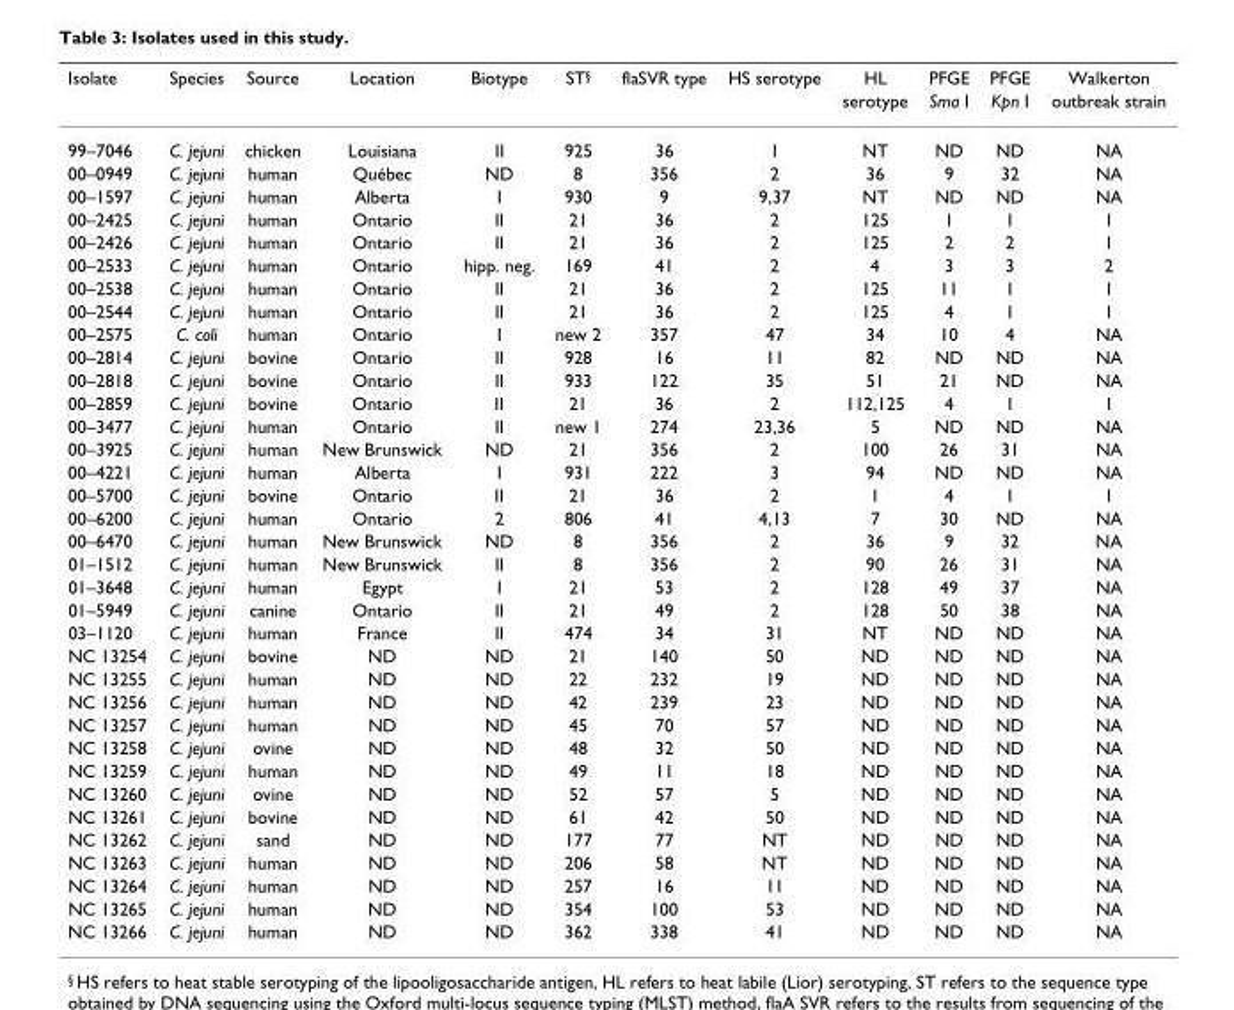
<table><thead><tr><td rowspan="2">Isolate</td><td rowspan="2">Species</td><td rowspan="2">Source</td><td rowspan="2">Location</td><td rowspan="2">Biotype</td><td rowspan="2">ST<sup>§</sup></td><td rowspan="2">flaSVR type</td><td rowspan="2">HS serotype</td><td rowspan="2">HL serotype</td><td rowspan="2">PFGE Sma I</td><td rowspan="2">PFGE Kpn I</td><td rowspan="2">Walkerton outbreak strain</td></tr><tr></tr></thead><tbody><tr><td>99–7046</td><td>C. jejuni</td><td>chicken</td><td>Louisiana</td><td>II</td><td>925</td><td>36</td><td>1</td><td>NT</td><td>ND</td><td>ND</td><td>NA</td></tr><tr><td>00–0949</td><td>C. jejuni</td><td>human</td><td>Québec</td><td>ND</td><td>8</td><td>356</td><td>2</td><td>36</td><td>9</td><td>32</td><td>NA</td></tr><tr><td>00–1597</td><td>C. jejuni</td><td>human</td><td>Alberta</td><td>I</td><td>930</td><td>9</td><td>9,37</td><td>NT</td><td>ND</td><td>ND</td><td>NA</td></tr><tr><td>00–2425</td><td>C. jejuni</td><td>human</td><td>Ontario</td><td>II</td><td>21</td><td>36</td><td>2</td><td>125</td><td>1</td><td>1</td><td>1</td></tr><tr><td>00–2426</td><td>C. jejuni</td><td>human</td><td>Ontario</td><td>II</td><td>21</td><td>36</td><td>2</td><td>125</td><td>2</td><td>2</td><td>1</td></tr><tr><td>00–2533</td><td>C. jejuni</td><td>human</td><td>Ontario</td><td>hipp. neg.</td><td>169</td><td>41</td><td>2</td><td>4</td><td>3</td><td>3</td><td>2</td></tr><tr><td>00–2538</td><td>C. jejuni</td><td>human</td><td>Ontario</td><td>II</td><td>21</td><td>36</td><td>2</td><td>125</td><td>11</td><td>1</td><td>1</td></tr><tr><td>00–2544</td><td>C. jejuni</td><td>human</td><td>Ontario</td><td>II</td><td>21</td><td>36</td><td>2</td><td>125</td><td>4</td><td>1</td><td>1</td></tr><tr><td>00–2575</td><td>C. coli</td><td>human</td><td>Ontario</td><td>I</td><td>new 2</td><td>357</td><td>47</td><td>34</td><td>10</td><td>4</td><td>NA</td></tr><tr><td>00–2814</td><td>C. jejuni</td><td>bovine</td><td>Ontario</td><td>II</td><td>928</td><td>16</td><td>11</td><td>82</td><td>ND</td><td>ND</td><td>NA</td></tr><tr><td>00–2818</td><td>C. jejuni</td><td>bovine</td><td>Ontario</td><td>II</td><td>933</td><td>122</td><td>35</td><td>51</td><td>21</td><td>ND</td><td>NA</td></tr><tr><td>00–2859</td><td>C. jejuni</td><td>bovine</td><td>Ontario</td><td>II</td><td>21</td><td>36</td><td>2</td><td>112,125</td><td>4</td><td>1</td><td>1</td></tr><tr><td>00–3477</td><td>C. jejuni</td><td>human</td><td>Ontario</td><td>II</td><td>new 1</td><td>274</td><td>23,36</td><td>5</td><td>ND</td><td>ND</td><td>NA</td></tr><tr><td>00–3925</td><td>C. jejuni</td><td>human</td><td>New Brunswick</td><td>ND</td><td>21</td><td>356</td><td>2</td><td>100</td><td>26</td><td>31</td><td>NA</td></tr><tr><td>00–4221</td><td>C. jejuni</td><td>human</td><td>Alberta</td><td>I</td><td>931</td><td>222</td><td>3</td><td>94</td><td>ND</td><td>ND</td><td>NA</td></tr><tr><td>00–5700</td><td>C. jejuni</td><td>bovine</td><td>Ontario</td><td>II</td><td>21</td><td>36</td><td>2</td><td>1</td><td>4</td><td>1</td><td>1</td></tr><tr><td>00–6200</td><td>C. jejuni</td><td>human</td><td>Ontario</td><td>2</td><td>806</td><td>41</td><td>4,13</td><td>7</td><td>30</td><td>ND</td><td>NA</td></tr><tr><td>00–6470</td><td>C. jejuni</td><td>human</td><td>New Brunswick</td><td>ND</td><td>8</td><td>356</td><td>2</td><td>36</td><td>9</td><td>32</td><td>NA</td></tr><tr><td>01–1512</td><td>C. jejuni</td><td>human</td><td>New Brunswick</td><td>II</td><td>8</td><td>356</td><td>2</td><td>90</td><td>26</td><td>31</td><td>NA</td></tr><tr><td>01–3648</td><td>C. jejuni</td><td>human</td><td>Egypt</td><td>I</td><td>21</td><td>53</td><td>2</td><td>128</td><td>49</td><td>37</td><td>NA</td></tr><tr><td>01–5949</td><td>C. jejuni</td><td>canine</td><td>Ontario</td><td>II</td><td>21</td><td>49</td><td>2</td><td>128</td><td>50</td><td>38</td><td>NA</td></tr><tr><td>03–1120</td><td>C. jejuni</td><td>human</td><td>France</td><td>II</td><td>474</td><td>34</td><td>31</td><td>NT</td><td>ND</td><td>ND</td><td>NA</td></tr><tr><td>NC 13254</td><td>C. jejuni</td><td>bovine</td><td>ND</td><td>ND</td><td>21</td><td>140</td><td>50</td><td>ND</td><td>ND</td><td>ND</td><td>NA</td></tr><tr><td>NC 13255</td><td>C. jejuni</td><td>human</td><td>ND</td><td>ND</td><td>22</td><td>232</td><td>19</td><td>ND</td><td>ND</td><td>ND</td><td>NA</td></tr><tr><td>NC 13256</td><td>C. jejuni</td><td>human</td><td>ND</td><td>ND</td><td>42</td><td>239</td><td>23</td><td>ND</td><td>ND</td><td>ND</td><td>NA</td></tr><tr><td>NC 13257</td><td>C. jejuni</td><td>human</td><td>ND</td><td>ND</td><td>45</td><td>70</td><td>57</td><td>ND</td><td>ND</td><td>ND</td><td>NA</td></tr><tr><td>NC 13258</td><td>C. jejuni</td><td>ovine</td><td>ND</td><td>ND</td><td>48</td><td>32</td><td>50</td><td>ND</td><td>ND</td><td>ND</td><td>NA</td></tr><tr><td>NC 13259</td><td>C. jejuni</td><td>human</td><td>ND</td><td>ND</td><td>49</td><td>11</td><td>18</td><td>ND</td><td>ND</td><td>ND</td><td>NA</td></tr><tr><td>NC 13260</td><td>C. jejuni</td><td>ovine</td><td>ND</td><td>ND</td><td>52</td><td>57</td><td>5</td><td>ND</td><td>ND</td><td>ND</td><td>NA</td></tr><tr><td>NC 13261</td><td>C. jejuni</td><td>bovine</td><td>ND</td><td>ND</td><td>61</td><td>42</td><td>50</td><td>ND</td><td>ND</td><td>ND</td><td>NA</td></tr><tr><td>NC 13262</td><td>C. jejuni</td><td>sand</td><td>ND</td><td>ND</td><td>177</td><td>77</td><td>NT</td><td>ND</td><td>ND</td><td>ND</td><td>NA</td></tr><tr><td>NC 13263</td><td>C. jejuni</td><td>human</td><td>ND</td><td>ND</td><td>206</td><td>58</td><td>NT</td><td>ND</td><td>ND</td><td>ND</td><td>NA</td></tr><tr><td>NC 13264</td><td>C. jejuni</td><td>human</td><td>ND</td><td>ND</td><td>257</td><td>16</td><td>11</td><td>ND</td><td>ND</td><td>ND</td><td>NA</td></tr><tr><td>NC 13265</td><td>C. jejuni</td><td>human</td><td>ND</td><td>ND</td><td>354</td><td>100</td><td>53</td><td>ND</td><td>ND</td><td>ND</td><td>NA</td></tr><tr><td>NC 13266</td><td>C. jejuni</td><td>human</td><td>ND</td><td>ND</td><td>362</td><td>338</td><td>41</td><td>ND</td><td>ND</td><td>ND</td><td>NA</td></tr></tbody></table>